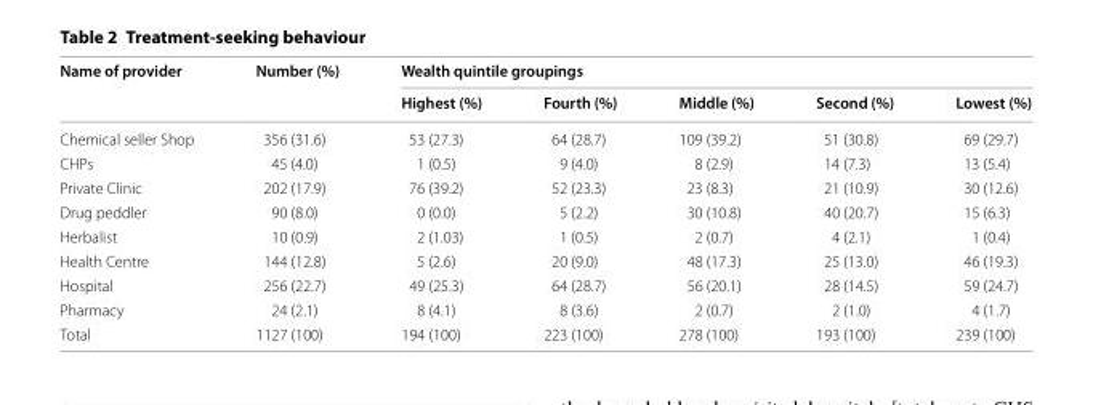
<table><thead><tr><td rowspan="2">Name of provider</td><td rowspan="2">Number (%)</td><td colspan="5">Wealth quintile groupings</td></tr><tr><td>Highest (%)</td><td>Fourth (%)</td><td>Middle (%)</td><td>Second (%)</td><td>Lowest (%)</td></tr></thead><tbody><tr><td>Chemical seller Shop</td><td>356 (31.6)</td><td>53 (27.3)</td><td>64 (28.7)</td><td>109 (39.2)</td><td>51 (30.8)</td><td>69 (29.7)</td></tr><tr><td>CHPs</td><td>45 (4.0)</td><td>1 (0.5)</td><td>9 (4.0)</td><td>8 (2.9)</td><td>14 (7.3)</td><td>13 (5.4)</td></tr><tr><td>Private Clinic</td><td>202 (17.9)</td><td>76 (39.2)</td><td>52 (23.3)</td><td>23 (8.3)</td><td>21 (10.9)</td><td>30 (12.6)</td></tr><tr><td>Drug peddler</td><td>90 (8.0)</td><td>0 (0.0)</td><td>5 (2.2)</td><td>30 (10.8)</td><td>40 (20.7)</td><td>15 (6.3)</td></tr><tr><td>Herbalist</td><td>10 (0.9)</td><td>2 (1.03)</td><td>1 (0.5)</td><td>2 (0.7)</td><td>4 (2.1)</td><td>1 (0.4)</td></tr><tr><td>Health Centre</td><td>144 (12.8)</td><td>5 (2.6)</td><td>20 (9.0)</td><td>48 (17.3)</td><td>25 (13.0)</td><td>46 (19.3)</td></tr><tr><td>Hospital</td><td>256 (22.7)</td><td>49 (25.3)</td><td>64 (28.7)</td><td>56 (20.1)</td><td>28 (14.5)</td><td>59 (24.7)</td></tr><tr><td>Pharmacy</td><td>24 (2.1)</td><td>8 (4.1)</td><td>8 (3.6)</td><td>2 (0.7)</td><td>2 (1.0)</td><td>4 (1.7)</td></tr><tr><td>Total</td><td>1127 (100)</td><td>194 (100)</td><td>223 (100)</td><td>278 (100)</td><td>193 (100)</td><td>239 (100)</td></tr></tbody></table>